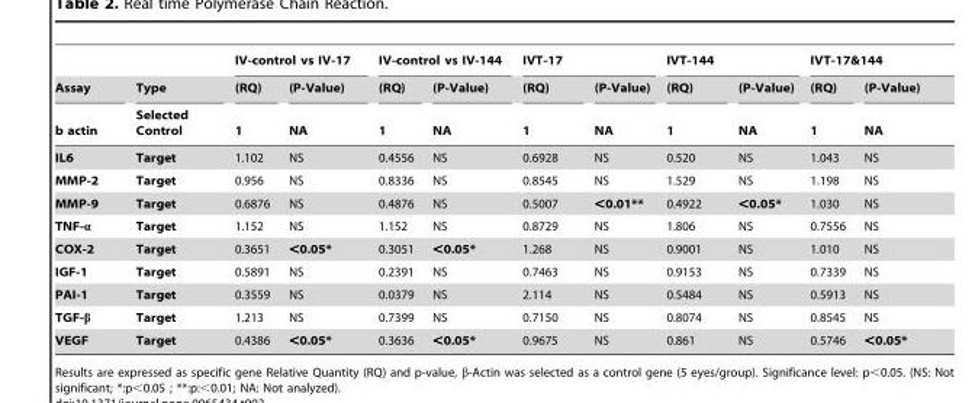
<table><thead><tr><td rowspan="3">Assay b actin</td><td rowspan="3">Type Selected Control</td><td colspan="2">IV-control vs IV-17</td><td colspan="2">IV-control vs IV-144</td><td colspan="2">IVT-17</td><td colspan="2">IVT-144</td><td colspan="2">IVT-17&amp;144</td></tr><tr><td rowspan="2">(RQ) 1</td><td rowspan="2">(P-Value) NA</td><td rowspan="2">(RQ) 1</td><td rowspan="2">(P-Value) NA</td><td rowspan="2">(RQ) 1</td><td rowspan="2">(P-Value) NA</td><td rowspan="2">(RQ) 1</td><td rowspan="2">(P-Value) NA</td><td rowspan="2">(RQ) 1</td><td rowspan="2">(P-Value) NA</td></tr><tr></tr></thead><tbody><tr><td>IL6</td><td>Target</td><td>1.102</td><td>NS</td><td>0.4556</td><td>NS</td><td>0.6928</td><td>NS</td><td>0.520</td><td>NS</td><td>1.043</td><td>NS</td></tr><tr><td>MMP-2</td><td>Target</td><td>0.956</td><td>NS</td><td>0.8336</td><td>NS</td><td>0.8545</td><td>NS</td><td>1.529</td><td>NS</td><td>1.198</td><td>NS</td></tr><tr><td>MMP-9</td><td>Target</td><td>0.6876</td><td>NS</td><td>0.4876</td><td>NS</td><td>0.5007</td><td>&lt;0.01**</td><td>0.4922</td><td>&lt;0.05*</td><td>1.030</td><td>NS</td></tr><tr><td>TNF-α</td><td>Target</td><td>1.152</td><td>NS</td><td>1.152</td><td>NS</td><td>0.8729</td><td>NS</td><td>1.806</td><td>NS</td><td>0.7556</td><td>NS</td></tr><tr><td>COX-2</td><td>Target</td><td>0.3651</td><td>&lt;0.05*</td><td>0.3051</td><td>&lt;0.05*</td><td>1.268</td><td>NS</td><td>0.9001</td><td>NS</td><td>1.010</td><td>NS</td></tr><tr><td>IGF-1</td><td>Target</td><td>0.5891</td><td>NS</td><td>0.2391</td><td>NS</td><td>0.7463</td><td>NS</td><td>0.9153</td><td>NS</td><td>0.7339</td><td>NS</td></tr><tr><td>PAI-1</td><td>Target</td><td>0.3559</td><td>NS</td><td>0.0379</td><td>NS</td><td>2.114</td><td>NS</td><td>0.5484</td><td>NS</td><td>0.5913</td><td>NS</td></tr><tr><td>TGF-β</td><td>Target</td><td>1.213</td><td>NS</td><td>0.7399</td><td>NS</td><td>0.7150</td><td>NS</td><td>0.8074</td><td>NS</td><td>0.8545</td><td>NS</td></tr><tr><td>VEGF</td><td>Target</td><td>0.4386</td><td>&lt;0.05*</td><td>0.3636</td><td>&lt;0.05*</td><td>0.9675</td><td>NS</td><td>0.861</td><td>NS</td><td>0.5746</td><td>&lt;0.05*</td></tr></tbody></table>